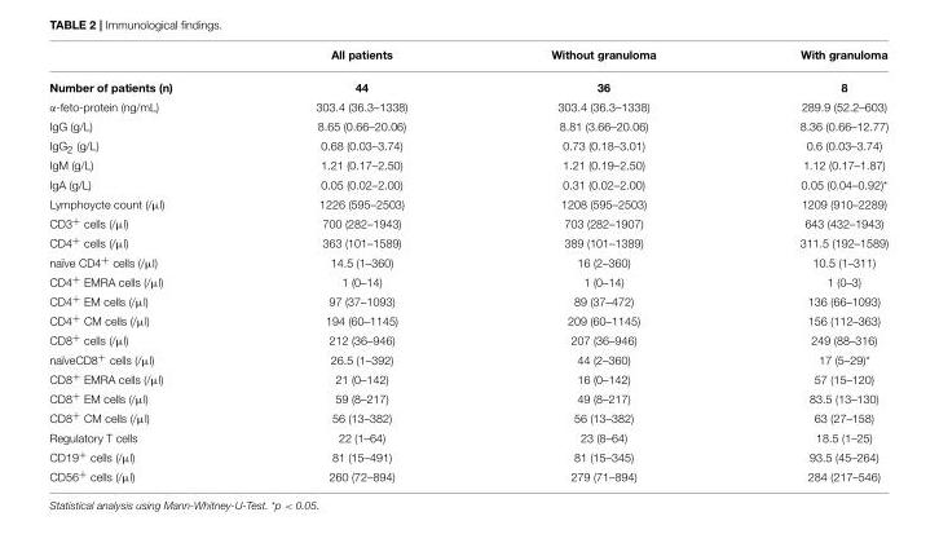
<table><thead><tr><td></td><td>All patients</td><td>Without granuloma</td><td>With granuloma</td></tr></thead><tbody><tr><td>Number of patients (n)</td><td>44</td><td>36</td><td>8</td></tr><tr><td>α-feto-protein (ng/mL)</td><td>303.4 (36.3–1338)</td><td>303.4 (36.3–1338)</td><td>289.9 (52.2–603)</td></tr><tr><td>IgG (g/L)</td><td>8.65 (0.66–20.06)</td><td>8.81 (3.66–20.06)</td><td>8.36 (0.66–12.77)</td></tr><tr><td>IgG<sub>2</sub> (g/L)</td><td>0.68 (0.03–3.74)</td><td>0.73 (0.18–3.01)</td><td>0.6 (0.03–3.74)</td></tr><tr><td>IgM (g/L)</td><td>1.21 (0.17–2.50)</td><td>1.21 (0.19–2.50)</td><td>1.12 (0.17–1.87)</td></tr><tr><td>IgA (g/L)</td><td>0.05 (0.02–2.00)</td><td>0.31 (0.02–2.00)</td><td>0.05 (0.04–0.92)*</td></tr><tr><td>Lymphoycte count (/µl)</td><td>1226 (595–2503)</td><td>1208 (595–2503)</td><td>1209 (910–2289)</td></tr><tr><td>CD3<sup>+</sup> cells (/µl)</td><td>700 (282–1943)</td><td>703 (282–1907)</td><td>643 (432–1943)</td></tr><tr><td>CD4<sup>+</sup> cells (/µl)</td><td>363 (101–1589)</td><td>389 (101–1389)</td><td>311.5 (192–1589)</td></tr><tr><td>naïve CD4<sup>+</sup> cells (/µl)</td><td>14.5 (1–360)</td><td>16 (2–360)</td><td>10.5 (1–311)</td></tr><tr><td>CD4<sup>+</sup> EMRA cells (/µl)</td><td>1 (0–14)</td><td>1 (0–14)</td><td>1 (0–3)</td></tr><tr><td>CD4<sup>+</sup> EM cells (/µl)</td><td>97 (37–1093)</td><td>89 (37–472)</td><td>136 (66–1093)</td></tr><tr><td>CD4<sup>+</sup> CM cells (/µl)</td><td>194 (60–1145)</td><td>209 (60–1145)</td><td>156 (112–363)</td></tr><tr><td>CD8<sup>+</sup> cells (/µl)</td><td>212 (36–946)</td><td>207 (36–946)</td><td>249 (88–316)</td></tr><tr><td>naïveCD8<sup>+</sup> cells (/µl)</td><td>26.5 (1–392)</td><td>44 (2–360)</td><td>17 (5–29)*</td></tr><tr><td>CD8<sup>+</sup> EMRA cells (/µl)</td><td>21 (0–142)</td><td>16 (0–142)</td><td>57 (15–120)</td></tr><tr><td>CD8<sup>+</sup> EM cells (/µl)</td><td>59 (8–217)</td><td>49 (8–217)</td><td>83.5 (13–130)</td></tr><tr><td>CD8<sup>+</sup> CM cells (/µl)</td><td>56 (13–382)</td><td>56 (13–382)</td><td>63 (27–158)</td></tr><tr><td>Regulatory T cells</td><td>22 (1–64)</td><td>23 (8–64)</td><td>18.5 (1–25)</td></tr><tr><td>CD19<sup>+</sup> cells (/µl)</td><td>81 (15–491)</td><td>81 (15–345)</td><td>93.5 (45–264)</td></tr><tr><td>CD56<sup>+</sup> cells (/µl)</td><td>260 (72–894)</td><td>279 (71–894)</td><td>284 (217–546)</td></tr></tbody></table>